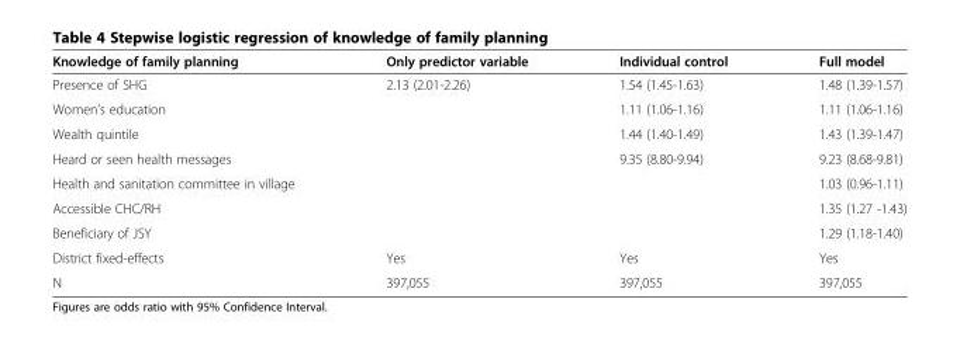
<table><thead><tr><td>Knowledge of family planning</td><td>Only predictor variable</td><td>Individual control</td><td>Full model</td></tr></thead><tbody><tr><td>Presence of SHG</td><td>2.13 (2.01-2.26)</td><td>1.54 (1.45-1.63)</td><td>1.48 (1.39-1.57)</td></tr><tr><td>Women’s education</td><td></td><td>1.11 (1.06-1.16)</td><td>1.11 (1.06-1.16)</td></tr><tr><td>Wealth quintile</td><td></td><td>1.44 (1.40-1.49)</td><td>1.43 (1.39-1.47)</td></tr><tr><td>Heard or seen health messages</td><td></td><td>9.35 (8.80-9.94)</td><td>9.23 (8.68-9.81)</td></tr><tr><td>Health and sanitation committee in village</td><td></td><td></td><td>1.03 (0.96-1.11)</td></tr><tr><td>Accessible CHC/RH</td><td></td><td></td><td>1.35 (1.27 -1.43)</td></tr><tr><td>Beneficiary of JSY</td><td></td><td></td><td>1.29 (1.18-1.40)</td></tr><tr><td>District fixed-effects</td><td>Yes</td><td>Yes</td><td>Yes</td></tr><tr><td>N</td><td>397,055</td><td>397,055</td><td>397,055</td></tr></tbody></table>